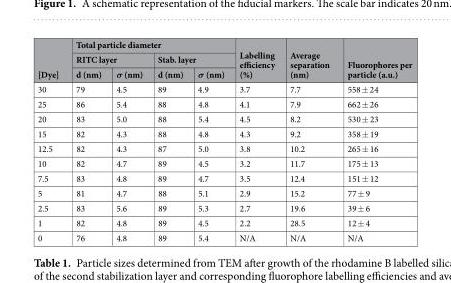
<table><thead><tr><td rowspan="3">[Dye]</td><td colspan="4">Total particle diameter</td><td rowspan="3">Labelling efficiency (%)</td><td rowspan="3">Average separation (nm)</td><td rowspan="3">Fluorophores per particle (a.u.)</td></tr><tr><td colspan="2">RITC layer</td><td colspan="2">Stab. layer</td></tr><tr><td>d (nm)</td><td>σ (nm)</td><td>d (nm)</td><td>σ (nm)</td></tr></thead><tbody><tr><td>30</td><td>79</td><td>4.5</td><td>89</td><td>4.9</td><td>3.7</td><td>7.7</td><td>558 ± 24</td></tr><tr><td>25</td><td>86</td><td>5.4</td><td>88</td><td>4.8</td><td>4.1</td><td>7.9</td><td>662 ± 26</td></tr><tr><td>20</td><td>83</td><td>5.0</td><td>88</td><td>5.4</td><td>4.5</td><td>8.2</td><td>530 ± 23</td></tr><tr><td>15</td><td>82</td><td>4.3</td><td>88</td><td>4.8</td><td>4.3</td><td>9.2</td><td>358 ± 19</td></tr><tr><td>12.5</td><td>82</td><td>4.3</td><td>87</td><td>5.0</td><td>3.8</td><td>10.2</td><td>265 ± 16</td></tr><tr><td>10</td><td>82</td><td>4.7</td><td>89</td><td>4.5</td><td>3.2</td><td>11.7</td><td>175 ± 13</td></tr><tr><td>7.5</td><td>83</td><td>4.8</td><td>89</td><td>4.7</td><td>3.5</td><td>12.4</td><td>151 ± 12</td></tr><tr><td>5</td><td>81</td><td>4.7</td><td>88</td><td>5.1</td><td>2.9</td><td>15.2</td><td>77 ± 9</td></tr><tr><td>2.5</td><td>83</td><td>5.6</td><td>89</td><td>5.3</td><td>2.7</td><td>19.6</td><td>39 ± 6</td></tr><tr><td>1</td><td>82</td><td>4.8</td><td>89</td><td>4.5</td><td>2.2</td><td>28.5</td><td>12 ± 4</td></tr><tr><td>0</td><td>76</td><td>4.8</td><td>89</td><td>5.4</td><td>N/A</td><td>N/A</td><td>N/A</td></tr></tbody></table>